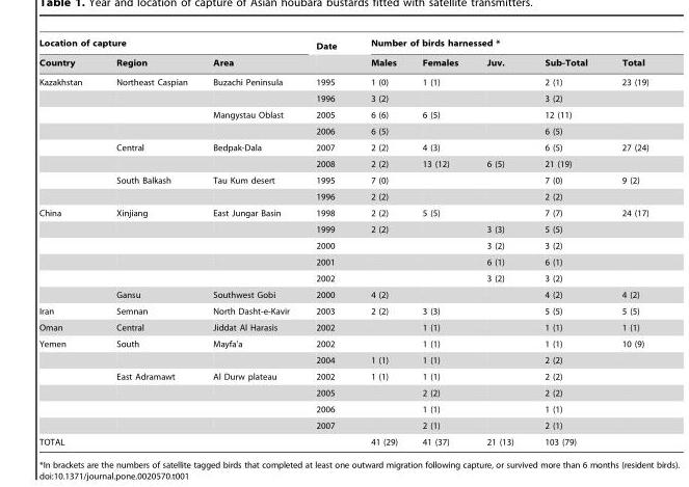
<table><thead><tr><td colspan="3">Location of capture</td><td rowspan="2">Date</td><td colspan="5">Number of birds harnessed *</td></tr><tr><td>Country</td><td>Region</td><td>Area</td><td>Males</td><td>Females</td><td>Juv.</td><td>Sub-Total</td><td>Total</td></tr></thead><tbody><tr><td rowspan="8">Kazakhstan</td><td>Northeast Caspian</td><td>Buzachi Peninsula</td><td>1995</td><td>1 (0)</td><td>1 (1)</td><td></td><td>2 (1)</td><td>23 (19)</td></tr><tr><td></td><td></td><td>1996</td><td>3 (2)</td><td></td><td></td><td>3 (2)</td><td></td></tr><tr><td></td><td>Mangystau Oblast</td><td>2005</td><td>6 (6)</td><td>6 (5)</td><td></td><td>12 (11)</td><td></td></tr><tr><td></td><td></td><td>2006</td><td>6 (5)</td><td></td><td></td><td>6 (5)</td><td></td></tr><tr><td>Central</td><td>Bedpak-Dala</td><td>2007</td><td>2 (2)</td><td>4 (3)</td><td></td><td>6 (5)</td><td>27 (24)</td></tr><tr><td></td><td></td><td>2008</td><td>2 (2)</td><td>13 (12)</td><td>6 (5)</td><td>21 (19)</td><td></td></tr><tr><td>South Balkash</td><td>Tau Kum desert</td><td>1995</td><td>7 (0)</td><td></td><td></td><td>7 (0)</td><td>9 (2)</td></tr><tr><td></td><td></td><td>1996</td><td>2 (2)</td><td></td><td></td><td>2 (2)</td><td></td></tr><tr><td rowspan="6">China</td><td>Xinjiang</td><td>East Jungar Basin</td><td>1998</td><td>2 (2)</td><td>5 (5)</td><td></td><td>7 (7)</td><td>24 (17)</td></tr><tr><td></td><td></td><td>1999</td><td>2 (2)</td><td></td><td>3 (3)</td><td>5 (5)</td><td></td></tr><tr><td></td><td></td><td>2000</td><td></td><td></td><td>3 (2)</td><td>3 (2)</td><td></td></tr><tr><td></td><td></td><td>2001</td><td></td><td></td><td>6 (1)</td><td>6 (1)</td><td></td></tr><tr><td></td><td></td><td>2002</td><td></td><td></td><td>3 (2)</td><td>3 (2)</td><td></td></tr><tr><td>Gansu</td><td>Southwest Gobi</td><td>2000</td><td>4 (2)</td><td></td><td></td><td>4 (2)</td><td>4 (2)</td></tr><tr><td>Iran</td><td>Semnan</td><td>North Dasht-e-Kavir</td><td>2003</td><td>2 (2)</td><td>3 (3)</td><td></td><td>5 (5)</td><td>5 (5)</td></tr><tr><td>Oman</td><td>Central</td><td>Jiddat Al Harasis</td><td>2002</td><td></td><td>1 (1)</td><td></td><td>1 (1)</td><td>1 (1)</td></tr><tr><td rowspan="6">Yemen</td><td>South</td><td>Mayfa’a</td><td>2002</td><td></td><td>1 (1)</td><td></td><td>1 (1)</td><td>10 (9)</td></tr><tr><td></td><td></td><td>2004</td><td>1 (1)</td><td>1 (1)</td><td></td><td>2 (2)</td><td></td></tr><tr><td>East Adramawt</td><td>Al Durw plateau</td><td>2002</td><td>1 (1)</td><td>1 (1)</td><td></td><td>2 (2)</td><td></td></tr><tr><td></td><td></td><td>2005</td><td></td><td>2 (2)</td><td></td><td>2 (2)</td><td></td></tr><tr><td></td><td></td><td>2006</td><td></td><td>1 (1)</td><td></td><td>1 (1)</td><td></td></tr><tr><td></td><td></td><td>2007</td><td></td><td>2 (1)</td><td></td><td>2 (1)</td><td></td></tr><tr><td>TOTAL</td><td></td><td></td><td></td><td>41 (29)</td><td>41 (37)</td><td>21 (13)</td><td colspan="2">103 (79)</td></tr></tbody></table>